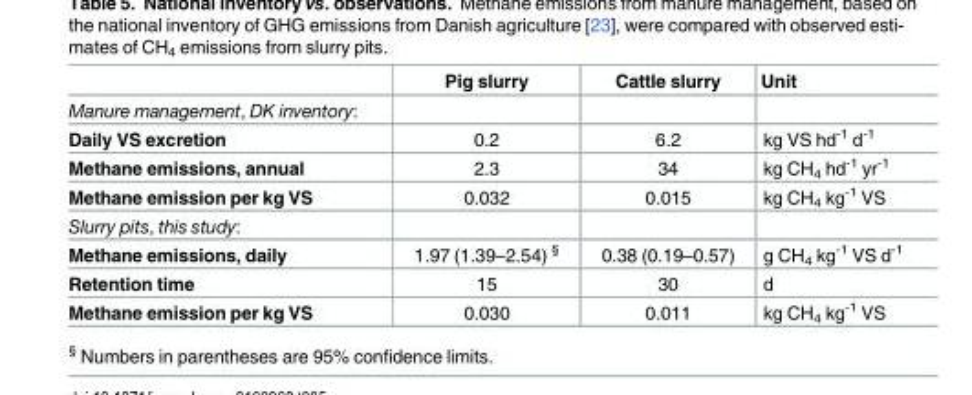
<table><thead><tr><td></td><td>Pig slurry</td><td>Cattle slurry</td><td>Unit</td></tr></thead><tbody><tr><td colspan="4">Manure management, DK inventory:</td></tr><tr><td>Daily VS excretion</td><td>0.2</td><td>6.2</td><td>kg VS hd<sup>-1</sup> d<sup>-1</sup></td></tr><tr><td>Methane emissions, annual</td><td>2.3</td><td>34</td><td>kg CH<sub>4</sub> hd<sup>-1</sup> yr<sup>-1</sup></td></tr><tr><td>Methane emission per kg VS</td><td>0.032</td><td>0.015</td><td>kg CH<sub>4</sub> kg<sup>-1</sup> VS</td></tr><tr><td colspan="4">Slurry pits, this study:</td></tr><tr><td>Methane emissions, daily</td><td>1.97 (1.39–2.54) <sup>§</sup></td><td>0.38 (0.19–0.57)</td><td>g CH<sub>4</sub> kg<sup>-1</sup> VS d<sup>-1</sup></td></tr><tr><td>Retention time</td><td>15</td><td>30</td><td>d</td></tr><tr><td>Methane emission per kg VS</td><td>0.030</td><td>0.011</td><td>kg CH<sub>4</sub> kg<sup>-1</sup> VS</td></tr></tbody></table>